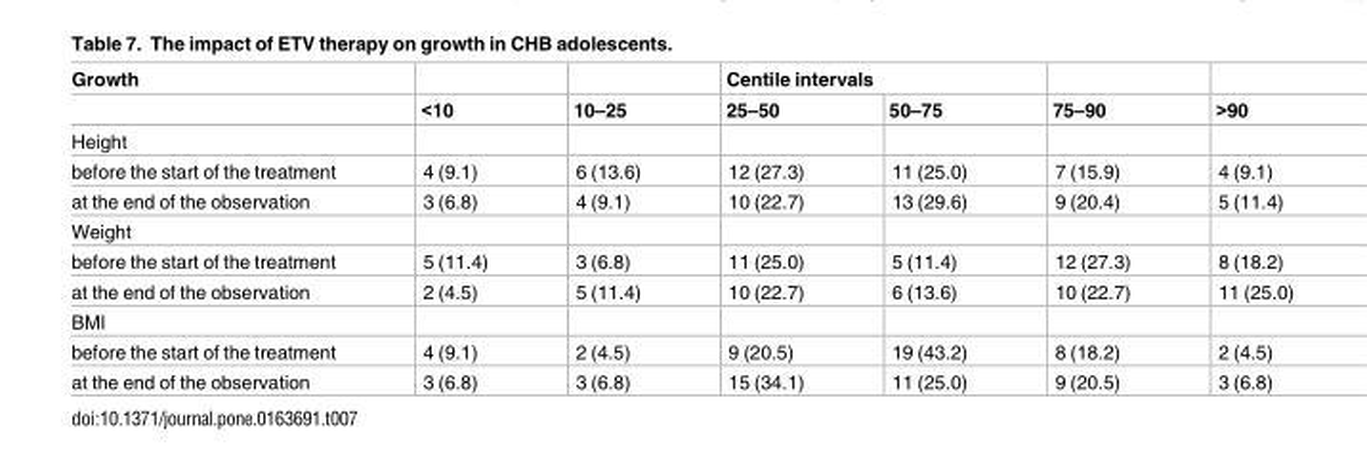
<table><thead><tr><td rowspan="2">Growth</td><td rowspan="2">&lt;10</td><td rowspan="2">10–25</td><td colspan="2">Centile intervals</td><td rowspan="2">75–90</td><td rowspan="2">&gt;90</td></tr><tr><td>25–50</td><td>50–75</td></tr></thead><tbody><tr><td colspan="7">Height</td></tr><tr><td>before the start of the treatment</td><td>4 (9.1)</td><td>6 (13.6)</td><td>12 (27.3)</td><td>11 (25.0)</td><td>7 (15.9)</td><td>4 (9.1)</td></tr><tr><td>at the end of the observation</td><td>3 (6.8)</td><td>4 (9.1)</td><td>10 (22.7)</td><td>13 (29.6)</td><td>9 (20.4)</td><td>5 (11.4)</td></tr><tr><td colspan="7">Weight</td></tr><tr><td>before the start of the treatment</td><td>5 (11.4)</td><td>3 (6.8)</td><td>11 (25.0)</td><td>5 (11.4)</td><td>12 (27.3)</td><td>8 (18.2)</td></tr><tr><td>at the end of the observation</td><td>2 (4.5)</td><td>5 (11.4)</td><td>10 (22.7)</td><td>6 (13.6)</td><td>10 (22.7)</td><td>11 (25.0)</td></tr><tr><td colspan="7">BMI</td></tr><tr><td>before the start of the treatment</td><td>4 (9.1)</td><td>2 (4.5)</td><td>9 (20.5)</td><td>19 (43.2)</td><td>8 (18.2)</td><td>2 (4.5)</td></tr><tr><td>at the end of the observation</td><td>3 (6.8)</td><td>3 (6.8)</td><td>15 (34.1)</td><td>11 (25.0)</td><td>9 (20.5)</td><td>3 (6.8)</td></tr></tbody></table>